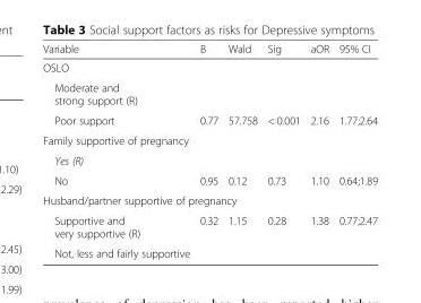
<table><thead><tr><td>Variable</td><td>B</td><td>Wald</td><td>Sig</td><td>aOR</td><td>95% CI</td></tr></thead><tbody><tr><td colspan="6">OSLO</td></tr><tr><td colspan="6">Moderate and strong support (R)</td></tr><tr><td>Poor support</td><td>0.77</td><td>57.758</td><td>&lt; 0.001</td><td>2.16</td><td>1.77;2.64</td></tr><tr><td colspan="6">Family supportive of pregnancy</td></tr><tr><td colspan="6">Yes (R)</td></tr><tr><td>No</td><td>0.95</td><td>0.12</td><td>0.73</td><td>1.10</td><td>0.64;1.89</td></tr><tr><td colspan="6">Husband/partner supportive of pregnancy</td></tr><tr><td>Supportive and very supportive (R)</td><td>0.32</td><td>1.15</td><td>0.28</td><td>1.38</td><td>0.77;2.47</td></tr><tr><td>Not, less and fairly supportive</td><td></td><td></td><td></td><td></td><td></td></tr></tbody></table>